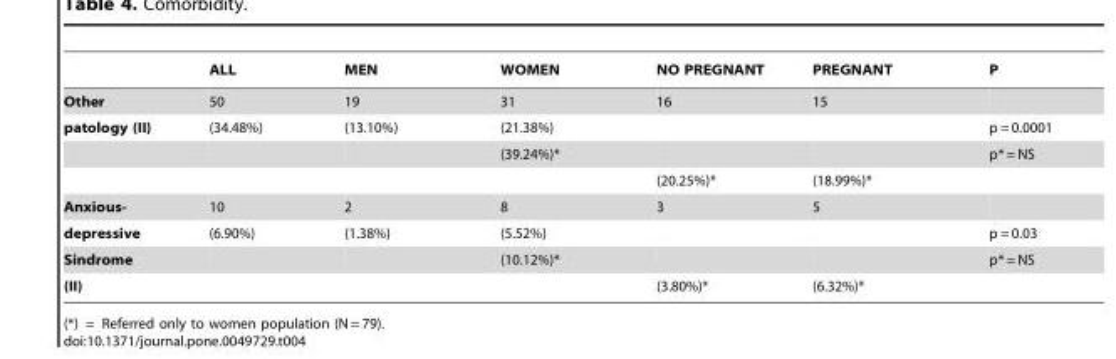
<table><thead><tr><td></td><td>ALL</td><td>MEN</td><td>WOMEN</td><td>NO PREGNANT</td><td>PREGNANT</td><td>P</td></tr></thead><tbody><tr><td>Other</td><td>50</td><td>19</td><td>31</td><td>16</td><td>15</td><td></td></tr><tr><td rowspan="3">patology (II)</td><td>(34.48%)</td><td>(13.10%)</td><td>(21.38%)</td><td></td><td></td><td>p = 0.0001</td></tr><tr><td></td><td></td><td>(39.24%)*</td><td></td><td></td><td>p* = NS</td></tr><tr><td></td><td></td><td></td><td>(20.25%)*</td><td>(18.99%)*</td><td></td></tr><tr><td>Anxious-</td><td>10</td><td>2</td><td>8</td><td>3</td><td>5</td><td></td></tr><tr><td>depressive</td><td>(6.90%)</td><td>(1.38%)</td><td>(5.52%)</td><td></td><td></td><td>p = 0.03</td></tr><tr><td>Sindrome</td><td></td><td></td><td>(10.12%)*</td><td></td><td></td><td>p* = NS</td></tr><tr><td>(II)</td><td></td><td></td><td></td><td>(3.80%)*</td><td>(6.32%)*</td><td></td></tr></tbody></table>